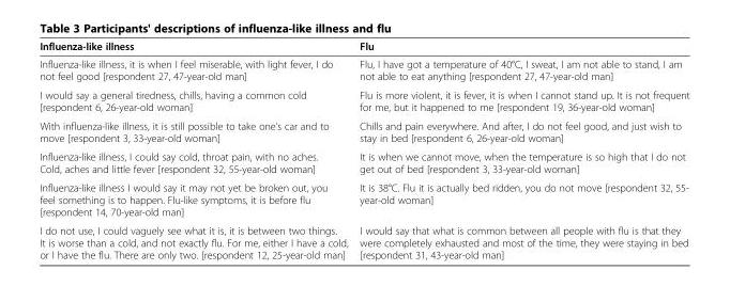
<table><thead><tr><td>Influenza-like illness</td><td>Flu</td></tr></thead><tbody><tr><td>Influenza-like illness, it is when I feel miserable, with light fever, I do not feel good [respondent 27, 47-year-old man]</td><td>Flu, I have got a temperature of 40°C, I sweat, I am not able to stand, I am not able to eat anything [respondent 27, 47-year-old man]</td></tr><tr><td>I would say a general tiredness, chills, having a common cold [respondent 6, 26-year-old woman]</td><td>Flu is more violent, it is fever, it is when I cannot stand up. It is not frequent for me, but it happened to me [respondent 19, 36-year-old woman]</td></tr><tr><td>With influenza-like illness, it is still possible to take one’s car and to move [respondent 3, 33-year-old woman]</td><td>Chills and pain everywhere. And after, I do not feel good, and just wish to stay in bed [respondent 6, 26-year-old woman]</td></tr><tr><td>Influenza-like illness, I could say cold, throat pain, with no aches. Cold, aches and little fever [respondent 32, 55-year-old woman]</td><td>It is when we cannot move, when the temperature is so high that I do not get out of bed [respondent 3, 33-year-old woman]</td></tr><tr><td>Influenza-like illness I would say it may not yet be broken out, you feel something is to happen. Flu-like symptoms, it is before flu [respondent 14, 70-year-old man]</td><td>It is 38°C. Flu it is actually bed ridden, you do not move [respondent 32, 55- year-old woman]</td></tr><tr><td>I do not use, I could vaguely see what it is, it is between two things. It is worse than a cold, and not exactly flu. For me, either I have a cold, or I have the flu. There are only two. [respondent 12, 25-year-old man]</td><td>I would say that what is common between all people with flu is that they were completely exhausted and most of the time, they were staying in bed [respondent 31, 43-year-old man]</td></tr></tbody></table>